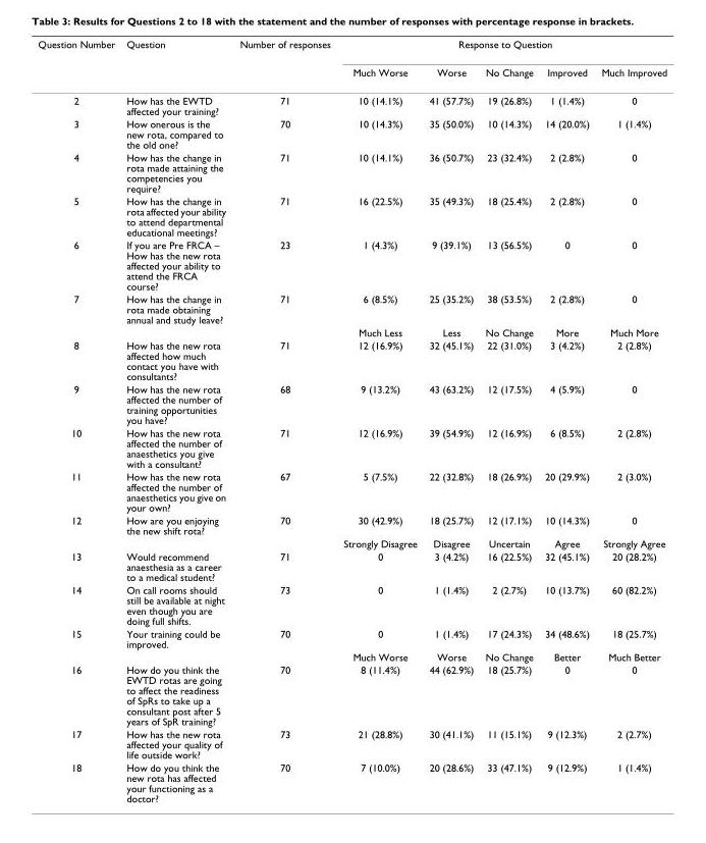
<table><thead><tr><td rowspan="2">Question Number</td><td rowspan="2">Question</td><td rowspan="2">Number of responses</td><td colspan="5">Response to Question</td></tr><tr><td>Much Worse</td><td>Worse</td><td>No Change</td><td>Improved</td><td>Much Improved</td></tr></thead><tbody><tr><td>2</td><td>How has the EWTD affected your training?</td><td>71</td><td>10 (14.1%)</td><td>41 (57.7%)</td><td>19 (26.8%)</td><td>1 (1.4%)</td><td>0</td></tr><tr><td>3</td><td>How onerous is the new rota, compared to the old one?</td><td>70</td><td>10 (14.3%)</td><td>35 (50.0%)</td><td>10 (14.3%)</td><td>14 (20.0%)</td><td>1 (1.4%)</td></tr><tr><td>4</td><td>How has the change in rota made attaining the competencies you require?</td><td>71</td><td>10 (14.1%)</td><td>36 (50.7%)</td><td>23 (32.4%)</td><td>2 (2.8%)</td><td>0</td></tr><tr><td>5</td><td>How has the change in rota affected your ability to attend departmental educational meetings?</td><td>71</td><td>16 (22.5%)</td><td>35 (49.3%)</td><td>18 (25.4%)</td><td>2 (2.8%)</td><td>0</td></tr><tr><td>6</td><td>If you are Pre FRCA – How has the new rota affected your ability to attend the FRCA course?</td><td>23</td><td>1 (4.3%)</td><td>9 (39.1%)</td><td>13 (56.5%)</td><td>0</td><td>0</td></tr><tr><td rowspan="2">7</td><td>How has the change in rota made obtaining annual and study leave?</td><td>71</td><td>6 (8.5%)</td><td>25 (35.2%)</td><td>38 (53.5%)</td><td>2 (2.8%)</td><td>0</td></tr><tr><td></td><td></td><td>Much Less</td><td>Less</td><td>No Change</td><td>More</td><td>Much More</td></tr><tr><td>8</td><td>How has the new rota affected how much contact you have with consultants?</td><td>71</td><td>12 (16.9%)</td><td>32 (45.1%)</td><td>22 (31.0%)</td><td>3 (4.2%)</td><td>2 (2.8%)</td></tr><tr><td>9</td><td>How has the new rota affected the number of training opportunities you have?</td><td>68</td><td>9 (13.2%)</td><td>43 (63.2%)</td><td>12 (17.5%)</td><td>4 (5.9%)</td><td>0</td></tr><tr><td>10</td><td>How has the new rota affected the number of anaesthetics you give with a consultant?</td><td>71</td><td>12 (16.9%)</td><td>39 (54.9%)</td><td>12 (16.9%)</td><td>6 (8.5%)</td><td>2 (2.8%)</td></tr><tr><td>11</td><td>How has the new rota affected the number of anaesthetics you give on your own?</td><td>67</td><td>5 (7.5%)</td><td>22 (32.8%)</td><td>18 (26.9%)</td><td>20 (29.9%)</td><td>2 (3.0%)</td></tr><tr><td rowspan="2">12</td><td>How are you enjoying the new shift rota?</td><td>70</td><td>30 (42.9%)</td><td>18 (25.7%)</td><td>12 (17.1%)</td><td>10 (14.3%)</td><td>0</td></tr><tr><td></td><td></td><td>Strongly Disagree</td><td>Disagree</td><td>Uncertain</td><td>Agree</td><td>Strongly Agree</td></tr><tr><td>13</td><td>Would recommend anaesthesia as a career to a medical student?</td><td>71</td><td>0</td><td>3 (4.2%)</td><td>16 (22.5%)</td><td>32 (45.1%)</td><td>20 (28.2%)</td></tr><tr><td>14</td><td>On call rooms should still be available at night even though you are doing full shifts.</td><td>73</td><td>0</td><td>1 (1.4%)</td><td>2 (2.7%)</td><td>10 (13.7%)</td><td>60 (82.2%)</td></tr><tr><td rowspan="2">15</td><td>Your training could be improved.</td><td>70</td><td>0</td><td>1 (1.4%)</td><td>17 (24.3%)</td><td>34 (48.6%)</td><td>18 (25.7%)</td></tr><tr><td></td><td></td><td>Much Worse</td><td>Worse</td><td>No Change</td><td>Better</td><td>Much Better</td></tr><tr><td>16</td><td>How do you think the EWTD rotas are going to affect the readiness of SpRs to take up a consultant post after 5 years of SpR training?</td><td>70</td><td>8 (11.4%)</td><td>44 (62.9%)</td><td>18 (25.7%)</td><td>0</td><td>0</td></tr><tr><td>17</td><td>How has the new rota affected your quality of life outside work?</td><td>73</td><td>21 (28.8%)</td><td>30 (41.1%)</td><td>11 (15.1%)</td><td>9 (12.3%)</td><td>2 (2.7%)</td></tr><tr><td>18</td><td>How do you think the new rota has affected your functioning as a doctor?</td><td>70</td><td>7 (10.0%)</td><td>20 (28.6%)</td><td>33 (47.1%)</td><td>9 (12.9%)</td><td>1 (1.4%)</td></tr></tbody></table>